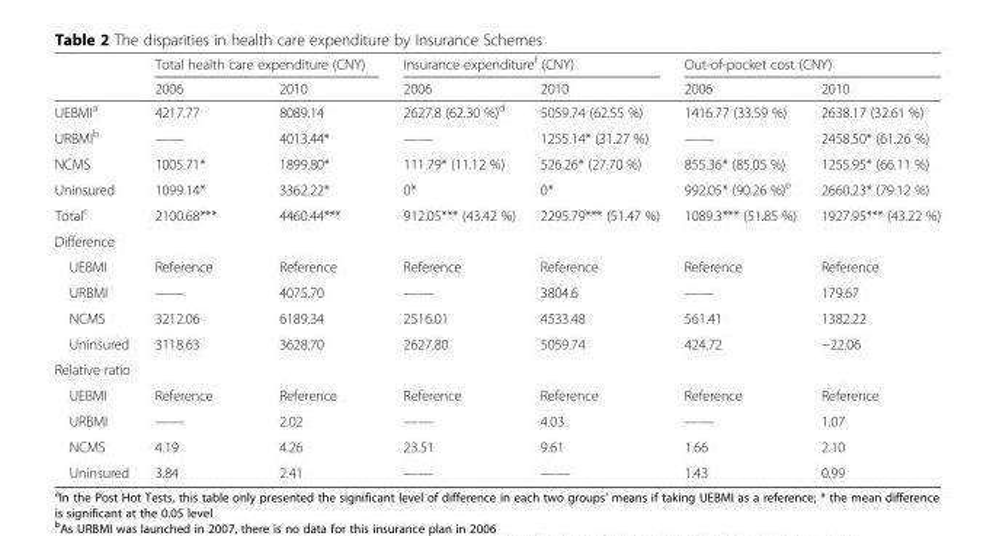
<table><thead><tr><td rowspan="2"></td><td colspan="2">Total health care expenditure (CNY)</td><td colspan="2">Insurance expenditure<sup>f</sup> (CNY)</td><td colspan="2">Out-of-pocket cost (CNY)</td></tr><tr><td>2006</td><td>2010</td><td>2006</td><td>2010</td><td>2006</td><td>2010</td></tr></thead><tbody><tr><td>UEBMI<sup>a</sup></td><td>4217.77</td><td>8089.14</td><td>2627.8 (62.30 %)<sup>d</sup></td><td>5059.74 (62.55 %)</td><td>1416.77 (33.59 %)</td><td>2638.17 (32.61 %)</td></tr><tr><td>URBMI<sup>b</sup></td><td>——</td><td>4013.44*</td><td>——</td><td>1255.14* (31.27 %)</td><td>——</td><td>2458.50* (61.26 %)</td></tr><tr><td>NCMS</td><td>1005.71*</td><td>1899.80*</td><td>111.79* (11.12 %)</td><td>526.26* (27.70 %)</td><td>855.36* (85.05 %)</td><td>1255.95* (66.11 %)</td></tr><tr><td>Uninsured</td><td>1099.14*</td><td>3362.22*</td><td>0*</td><td>0*</td><td>992.05* (90.26 %)<sup>e</sup></td><td>2660.23* (79.12 %)</td></tr><tr><td>Total<sup>c</sup></td><td>2100.68***</td><td>4460.44***</td><td>912.05*** (43.42 %)</td><td>2295.79*** (51.47 %)</td><td>1089.3*** (51.85 %)</td><td>1927.95*** (43.22 %)</td></tr><tr><td colspan="7">Difference</td></tr><tr><td>UEBMI</td><td>Reference</td><td>Reference</td><td>Reference</td><td>Reference</td><td>Reference</td><td>Reference</td></tr><tr><td>URBMI</td><td>——</td><td>4075.70</td><td>——</td><td>3804.6</td><td>——</td><td>179.67</td></tr><tr><td>NCMS</td><td>3212.06</td><td>6189.34</td><td>2516.01</td><td>4533.48</td><td>561.41</td><td>1382.22</td></tr><tr><td>Uninsured</td><td>3118.63</td><td>3628.70</td><td>2627.80</td><td>5059.74</td><td>424.72</td><td>−22.06</td></tr><tr><td colspan="7">Relative ratio</td></tr><tr><td>UEBMI</td><td>Reference</td><td>Reference</td><td>Reference</td><td>Reference</td><td>Reference</td><td>Reference</td></tr><tr><td>URBMI</td><td>——</td><td>2.02</td><td>——</td><td>4.03</td><td>——</td><td>1.07</td></tr><tr><td>NCMS</td><td>4.19</td><td>4.26</td><td>23.51</td><td>9.61</td><td>1.66</td><td>2.10</td></tr><tr><td>Uninsured</td><td>3.84</td><td>2.41</td><td>——</td><td>——</td><td>1.43</td><td>0.99</td></tr></tbody></table>